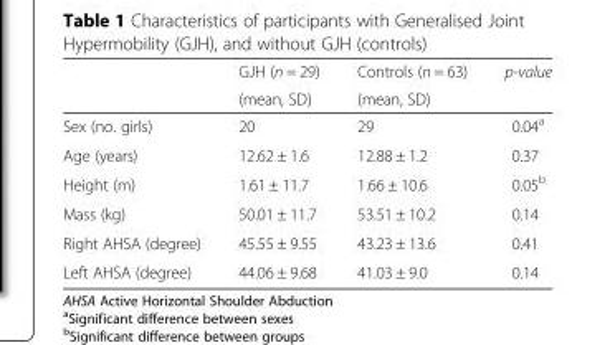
<table><thead><tr><td rowspan="2"></td><td rowspan="2">GJH (n = 29) (mean, SD)</td><td rowspan="2">Controls (n = 63) (mean, SD)</td><td rowspan="2">p-value</td></tr><tr></tr></thead><tbody><tr><td>Sex (no. girls)</td><td>20</td><td>29</td><td>0.04<sup>a</sup></td></tr><tr><td>Age (years)</td><td>12.62 ± 1.6</td><td>12.88 ± 1.2</td><td>0.37</td></tr><tr><td>Height (m)</td><td>1.61 ± 11.7</td><td>1.66 ± 10.6</td><td>0.05<sup>b</sup></td></tr><tr><td>Mass (kg)</td><td>50.01 ± 11.7</td><td>53.51 ± 10.2</td><td>0.14</td></tr><tr><td>Right AHSA (degree)</td><td>45.55 ± 9.55</td><td>43.23 ± 13.6</td><td>0.41</td></tr><tr><td>Left AHSA (degree)</td><td>44.06 ± 9.68</td><td>41.03 ± 9.0</td><td>0.14</td></tr></tbody></table>